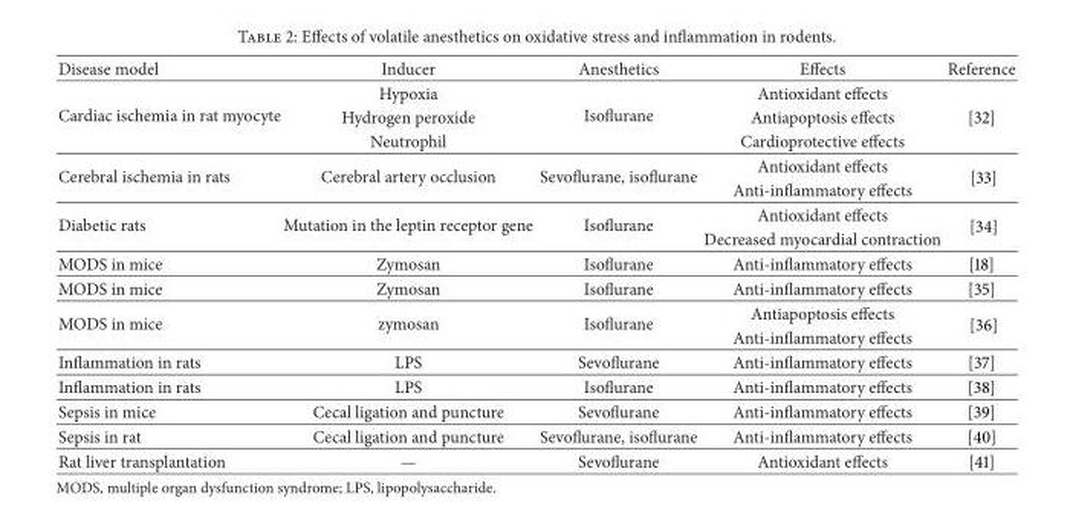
<table><thead><tr><td>Disease model</td><td>Inducer</td><td>Anesthetics</td><td>Effects</td><td>Reference</td></tr></thead><tbody><tr><td rowspan="3">Cardiac ischemia in rat myocyte</td><td>Hypoxia</td><td rowspan="3">Isoflurane</td><td>Antioxidant effects</td><td rowspan="3">[32]</td></tr><tr><td>Hydrogen peroxide</td><td>Antiapoptosis effects</td></tr><tr><td>Neutrophil</td><td>Cardioprotective effects</td></tr><tr><td rowspan="2">Cerebral ischemia in rats</td><td rowspan="2">Cerebral artery occlusion</td><td rowspan="2">Sevoflurane, isoflurane</td><td>Antioxidant effects</td><td rowspan="2">[33]</td></tr><tr><td>Anti-inflammatory effects</td></tr><tr><td rowspan="2">Diabetic rats</td><td rowspan="2">Mutation in the leptin receptor gene</td><td rowspan="2">Isoflurane</td><td>Antioxidant effects</td><td rowspan="2">[34]</td></tr><tr><td>Decreased myocardial contraction</td></tr><tr><td>MODS in mice</td><td>Zymosan</td><td>Isoflurane</td><td>Anti-inflammatory effects</td><td>[18]</td></tr><tr><td>MODS in mice</td><td>Zymosan</td><td>Isoflurane</td><td>Anti-inflammatory effects</td><td>[35]</td></tr><tr><td rowspan="2">MODS in mice</td><td rowspan="2">zymosan</td><td rowspan="2">Isoflurane</td><td>Antiapoptosis effects</td><td rowspan="2">[36]</td></tr><tr><td>Anti-inflammatory effects</td></tr><tr><td>Inflammation in rats</td><td>LPS</td><td>Sevoflurane</td><td>Anti-inflammatory effects</td><td>[37]</td></tr><tr><td>Inflammation in rats</td><td>LPS</td><td>Isoflurane</td><td>Anti-inflammatory effects</td><td>[38]</td></tr><tr><td>Sepsis in mice</td><td>Cecal ligation and puncture</td><td>Sevoflurane</td><td>Anti-inflammatory effects</td><td>[39]</td></tr><tr><td>Sepsis in rat</td><td>Cecal ligation and puncture</td><td>Sevoflurane, isoflurane</td><td>Anti-inflammatory effects</td><td>[40]</td></tr><tr><td>Rat liver transplantation</td><td>—</td><td>Sevoflurane</td><td>Antioxidant effects</td><td>[41]</td></tr></tbody></table>